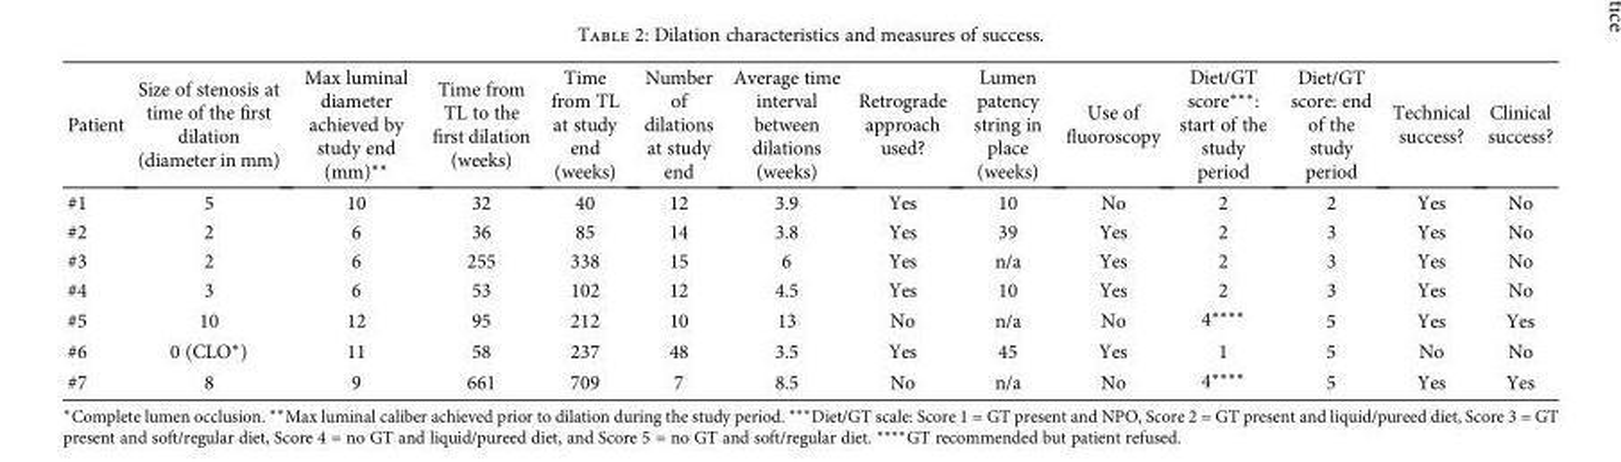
<table><thead><tr><td>Patient</td><td>Size of stenosis at time of the first dilation (diameter in mm)</td><td>Max luminal diameter achieved by study end (mm)∗∗</td><td>Time from TL to the first dilation (weeks)</td><td>Time from TL at study end (weeks)</td><td>Number of dilations at study end</td><td>Average time interval between dilations (weeks)</td><td>Retrograde approach used?</td><td>Lumen patency string in place (weeks)</td><td>Use of fluoroscopy</td><td>Diet/GT score∗∗∗: start of the study period</td><td>Diet/GT score: end of the study period</td><td>Technical success?</td><td>Clinical success?</td></tr></thead><tbody><tr><td>#1</td><td>5</td><td>10</td><td>32</td><td>40</td><td>12</td><td>3.9</td><td>Yes</td><td>10</td><td>No</td><td>2</td><td>2</td><td>Yes</td><td>No</td></tr><tr><td>#2</td><td>2</td><td>6</td><td>36</td><td>85</td><td>14</td><td>3.8</td><td>Yes</td><td>39</td><td>Yes</td><td>2</td><td>3</td><td>Yes</td><td>No</td></tr><tr><td>#3</td><td>2</td><td>6</td><td>255</td><td>338</td><td>15</td><td>6</td><td>Yes</td><td>n/a</td><td>Yes</td><td>2</td><td>3</td><td>Yes</td><td>No</td></tr><tr><td>#4</td><td>3</td><td>6</td><td>53</td><td>102</td><td>12</td><td>4.5</td><td>Yes</td><td>10</td><td>Yes</td><td>2</td><td>3</td><td>Yes</td><td>No</td></tr><tr><td>#5</td><td>10</td><td>12</td><td>95</td><td>212</td><td>10</td><td>13</td><td>No</td><td>n/a</td><td>No</td><td>4∗∗∗∗</td><td>5</td><td>Yes</td><td>Yes</td></tr><tr><td>#6</td><td>0 (CLO∗)</td><td>11</td><td>58</td><td>237</td><td>48</td><td>3.5</td><td>Yes</td><td>45</td><td>Yes</td><td>1</td><td>5</td><td>No</td><td>No</td></tr><tr><td>#7</td><td>8</td><td>9</td><td>661</td><td>709</td><td>7</td><td>8.5</td><td>No</td><td>n/a</td><td>No</td><td>4∗∗∗∗</td><td>5</td><td>Yes</td><td>Yes</td></tr></tbody></table>